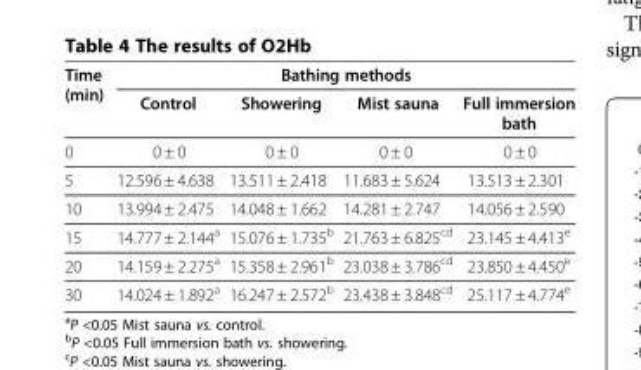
<table><thead><tr><td rowspan="2">Time (min)</td><td colspan="4">Bathing methods</td></tr><tr><td>Control</td><td>Showering</td><td>Mist sauna</td><td>Full immersion bath</td></tr></thead><tbody><tr><td>0</td><td>0 ± 0</td><td>0 ± 0</td><td>0 ± 0</td><td>0 ± 0</td></tr><tr><td>5</td><td>12.596 ± 4.638</td><td>13.511 ± 2.418</td><td>11.683 ± 5.624</td><td>13.513 ± 2.301</td></tr><tr><td>10</td><td>13.994 ± 2.475</td><td>14.048 ± 1.662</td><td>14.281 ± 2.747</td><td>14.056 ± 2.590</td></tr><tr><td>15</td><td>14.777 ± 2.144<sup>a</sup></td><td>15.076 ± 1.735<sup>b</sup></td><td>21.763 ± 6.825<sup>cd</sup></td><td>23.145 ± 4.413<sup>e</sup></td></tr><tr><td>20</td><td>14.159 ± 2.275<sup>a</sup></td><td>15.358 ± 2.961<sup>b</sup></td><td>23.038 ± 3.786<sup>cd</sup></td><td>23.850 ± 4.450<sup>e</sup></td></tr><tr><td>30</td><td>14.024 ± 1.892<sup>a</sup></td><td>16.247 ± 2.572<sup>b</sup></td><td>23.438 ± 3.848<sup>cd</sup></td><td>25.117 ± 4.774<sup>e</sup></td></tr></tbody></table>